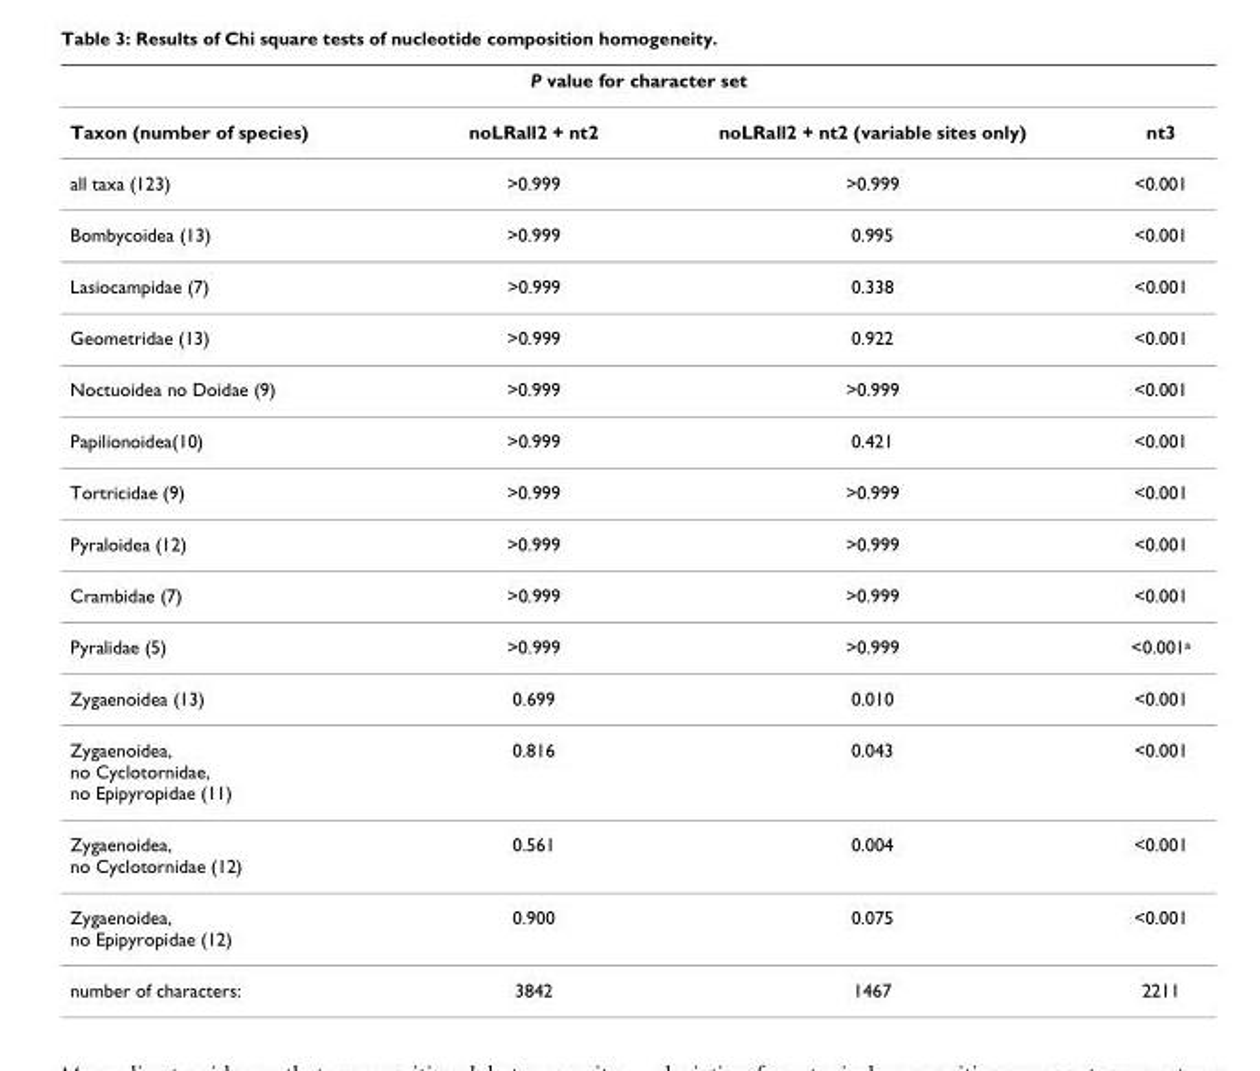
<table><thead><tr><td colspan="4">P value for character set</td></tr><tr><td>Taxon (number of species)</td><td>noLRall2 + nt2</td><td>noLRall2 + nt2 (variable sites only)</td><td>nt3</td></tr></thead><tbody><tr><td>all taxa (123)</td><td>&gt;0.999</td><td>&gt;0.999</td><td>&lt;0.001</td></tr><tr><td>Bombycoidea (13)</td><td>&gt;0.999</td><td>0.995</td><td>&lt;0.001</td></tr><tr><td>Lasiocampidae (7)</td><td>&gt;0.999</td><td>0.338</td><td>&lt;0.001</td></tr><tr><td>Geometridae (13)</td><td>&gt;0.999</td><td>0.922</td><td>&lt;0.001</td></tr><tr><td>Noctuoidea no Doidae (9)</td><td>&gt;0.999</td><td>&gt;0.999</td><td>&lt;0.001</td></tr><tr><td>Papilionoidea(10)</td><td>&gt;0.999</td><td>0.421</td><td>&lt;0.001</td></tr><tr><td>Tortricidae (9)</td><td>&gt;0.999</td><td>&gt;0.999</td><td>&lt;0.001</td></tr><tr><td>Pyraloidea (12)</td><td>&gt;0.999</td><td>&gt;0.999</td><td>&lt;0.001</td></tr><tr><td>Crambidae (7)</td><td>&gt;0.999</td><td>&gt;0.999</td><td>&lt;0.001</td></tr><tr><td>Pyralidae (5)</td><td>&gt;0.999</td><td>&gt;0.999</td><td>&lt;0.001<sup>a</sup></td></tr><tr><td>Zygaenoidea (13)</td><td>0.699</td><td>0.010</td><td>&lt;0.001</td></tr><tr><td>Zygaenoidea, no Cyclotornidae, no Epipyropidae (11)</td><td>0.816</td><td>0.043</td><td>&lt;0.001</td></tr><tr><td>Zygaenoidea, no Cyclotornidae (12)</td><td>0.561</td><td>0.004</td><td>&lt;0.001</td></tr><tr><td>Zygaenoidea, no Epipyropidae (12)</td><td>0.900</td><td>0.075</td><td>&lt;0.001</td></tr><tr><td>number of characters:</td><td>3842</td><td>1467</td><td>2211</td></tr></tbody></table>